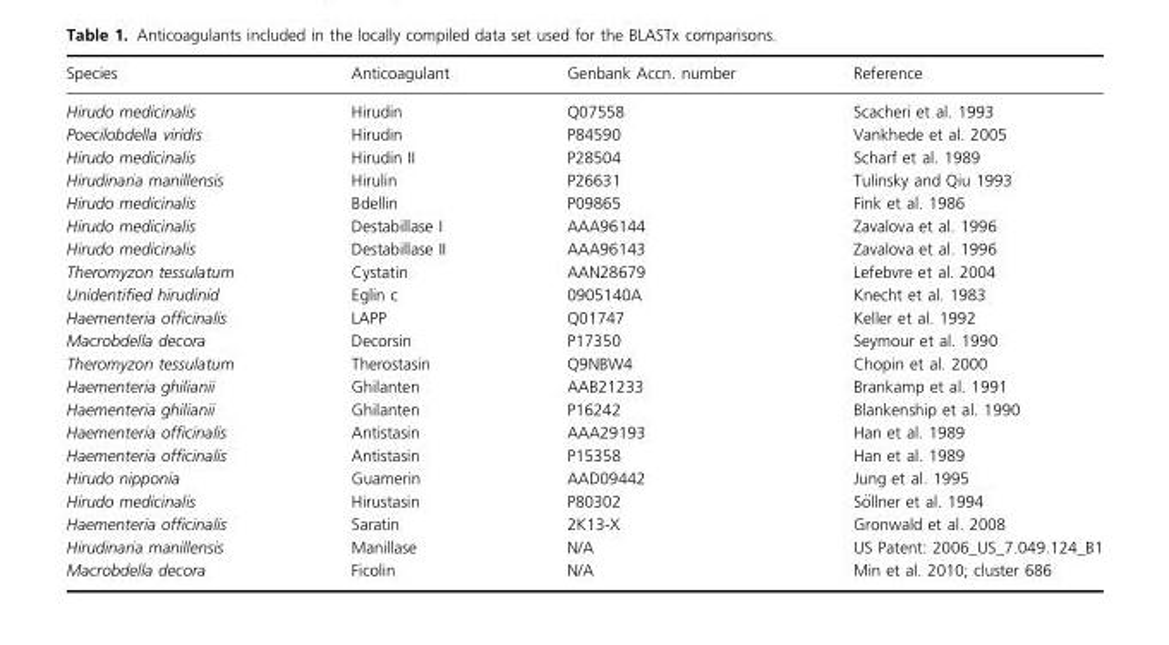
<table><thead><tr><td>Species</td><td>Anticoagulant</td><td>Genbank Accn. number</td><td>Reference</td></tr></thead><tbody><tr><td>Hirudo medicinalis</td><td>Hirudin</td><td>Q07558</td><td>Scacheri et al. 1993</td></tr><tr><td>Poecilobdella viridis</td><td>Hirudin</td><td>P84590</td><td>Vankhede et al. 2005</td></tr><tr><td>Hirudo medicinalis</td><td>Hirudin II</td><td>P28504</td><td>Scharf et al. 1989</td></tr><tr><td>Hirudinaria manillensis</td><td>Hirulin</td><td>P26631</td><td>Tulinsky and Qiu 1993</td></tr><tr><td>Hirudo medicinalis</td><td>Bdellin</td><td>P09865</td><td>Fink et al. 1986</td></tr><tr><td>Hirudo medicinalis</td><td>Destabillase I</td><td>AAA96144</td><td>Zavalova et al. 1996</td></tr><tr><td>Hirudo medicinalis</td><td>Destabillase II</td><td>AAA96143</td><td>Zavalova et al. 1996</td></tr><tr><td>Theromyzon tessulatum</td><td>Cystatin</td><td>AAN28679</td><td>Lefebvre et al. 2004</td></tr><tr><td>Unidentified hirudinid</td><td>Eglin c</td><td>0905140A</td><td>Knecht et al. 1983</td></tr><tr><td>Haementeria officinalis</td><td>LAPP</td><td>Q01747</td><td>Keller et al. 1992</td></tr><tr><td>Macrobdella decora</td><td>Decorsin</td><td>P17350</td><td>Seymour et al. 1990</td></tr><tr><td>Theromyzon tessulatum</td><td>Therostasin</td><td>Q9NBW4</td><td>Chopin et al. 2000</td></tr><tr><td>Haementeria ghilianii</td><td>Ghilanten</td><td>AAB21233</td><td>Brankamp et al. 1991</td></tr><tr><td>Haementeria ghilianii</td><td>Ghilanten</td><td>P16242</td><td>Blankenship et al. 1990</td></tr><tr><td>Haementeria officinalis</td><td>Antistasin</td><td>AAA29193</td><td>Han et al. 1989</td></tr><tr><td>Haementeria officinalis</td><td>Antistasin</td><td>P15358</td><td>Han et al. 1989</td></tr><tr><td>Hirudo nipponia</td><td>Guamerin</td><td>AAD09442</td><td>Jung et al. 1995</td></tr><tr><td>Hirudo medicinalis</td><td>Hirustasin</td><td>P80302</td><td>S€ollner et al. 1994</td></tr><tr><td>Haementeria officinalis</td><td>Saratin</td><td>2K13-X</td><td>Gronwald et al. 2008</td></tr><tr><td>Hirudinaria manillensis</td><td>Manillase</td><td>N/A</td><td>US Patent: 2006_US_7.049.124_B1</td></tr><tr><td>Macrobdella decora</td><td>Ficolin</td><td>N/A</td><td>Min et al. 2010; cluster 686</td></tr></tbody></table>